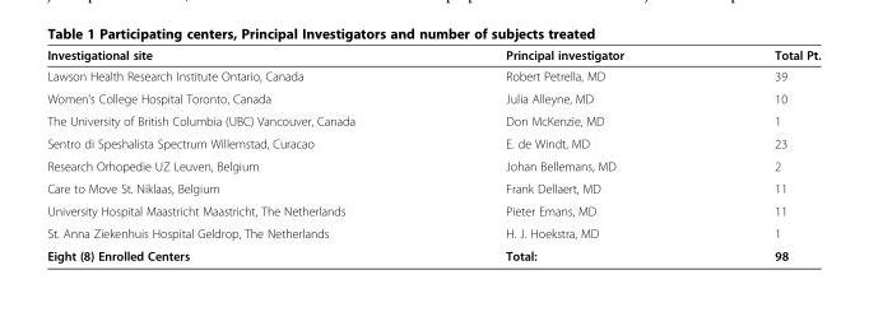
<table><thead><tr><td>Investigational site</td><td>Principal investigator</td><td>Total Pt.</td></tr></thead><tbody><tr><td>Lawson Health Research Institute Ontario, Canada</td><td>Robert Petrella, MD</td><td>39</td></tr><tr><td>Women&#x27;s College Hospital Toronto, Canada</td><td>Julia Alleyne, MD</td><td>10</td></tr><tr><td>The University of British Columbia (UBC) Vancouver, Canada</td><td>Don McKenzie, MD</td><td>1</td></tr><tr><td>Sentro di Speshalista Spectrum Willemstad, Curacao</td><td>E. de Windt, MD</td><td>23</td></tr><tr><td>Research Orhopedie UZ Leuven, Belgium</td><td>Johan Bellemans, MD</td><td>2</td></tr><tr><td>Care to Move St. Niklaas, Belgium</td><td>Frank Dellaert, MD</td><td>11</td></tr><tr><td>University Hospital Maastricht Maastricht, The Netherlands</td><td>Pieter Emans, MD</td><td>11</td></tr><tr><td>St. Anna Ziekenhuis Hospital Geldrop, The Netherlands</td><td>H. J. Hoekstra, MD</td><td>1</td></tr><tr><td>Eight (8) Enrolled Centers</td><td>Total:</td><td>98</td></tr></tbody></table>